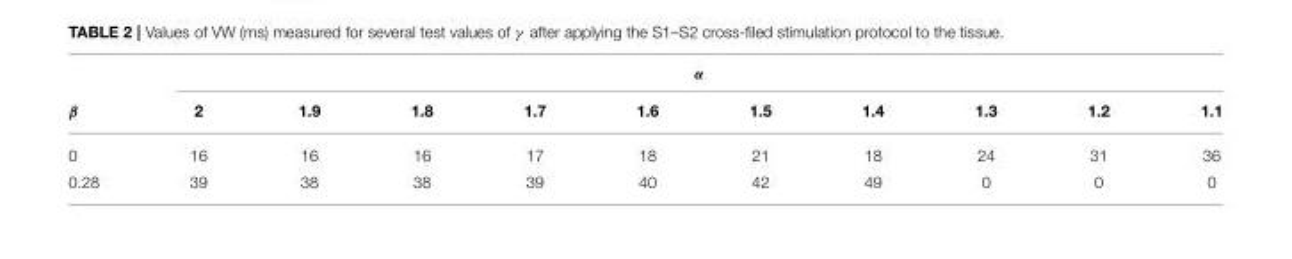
<table><thead><tr><td rowspan="2">β</td><td colspan="10">α</td></tr><tr><td>2</td><td>1.9</td><td>1.8</td><td>1.7</td><td>1.6</td><td>1.5</td><td>1.4</td><td>1.3</td><td>1.2</td><td>1.1</td></tr></thead><tbody><tr><td>0</td><td>16</td><td>16</td><td>16</td><td>17</td><td>18</td><td>21</td><td>18</td><td>24</td><td>31</td><td>36</td></tr><tr><td>0.28</td><td>39</td><td>38</td><td>38</td><td>39</td><td>40</td><td>42</td><td>49</td><td>0</td><td>0</td><td>0</td></tr></tbody></table>